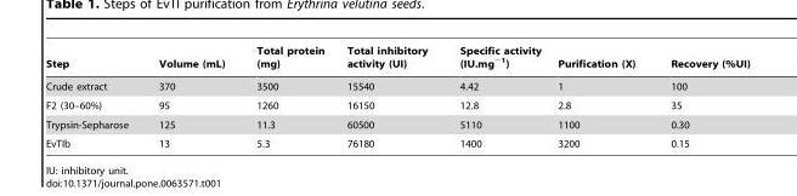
<table><thead><tr><td>Step</td><td>Volume (mL)</td><td>Total protein (mg)</td><td>Total inhibitory activity (UI)</td><td>Specific activity (IU.mg<sup>−1</sup>)</td><td>Purification (X)</td><td>Recovery (%UI)</td></tr></thead><tbody><tr><td>Crude extract</td><td>370</td><td>3500</td><td>15540</td><td>4.42</td><td>1</td><td>100</td></tr><tr><td>F2 (30–60%)</td><td>95</td><td>1260</td><td>16150</td><td>12.8</td><td>2.8</td><td>35</td></tr><tr><td>Trypsin-Sepharose</td><td>125</td><td>11.3</td><td>60500</td><td>5110</td><td>1100</td><td>0.30</td></tr><tr><td>EvTIb</td><td>13</td><td>5.3</td><td>76180</td><td>1400</td><td>3200</td><td>0.15</td></tr></tbody></table>